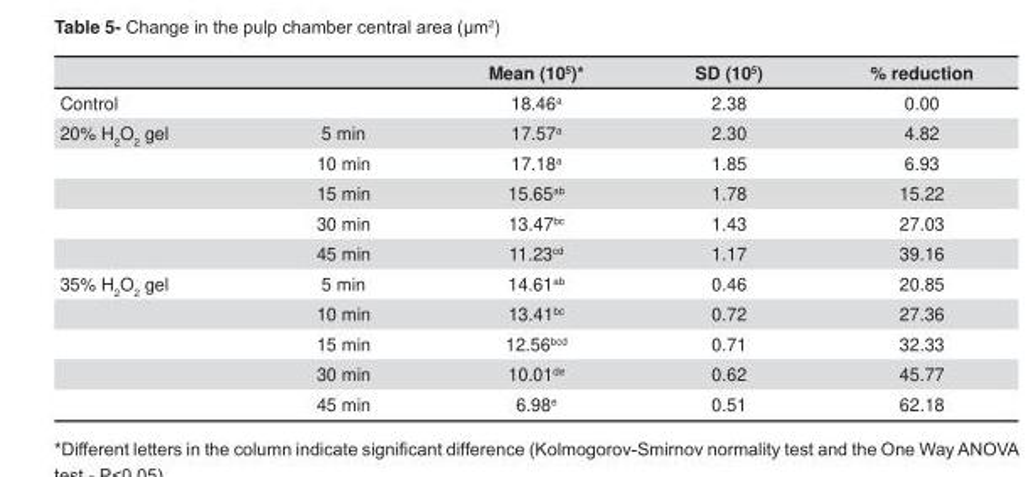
<table><thead><tr><td></td><td></td><td>Mean (105)*</td><td>SD (105)</td><td>% reduction</td></tr></thead><tbody><tr><td>Control</td><td></td><td>18.46a</td><td>2.38</td><td>0.00</td></tr><tr><td rowspan="5">20% H2O2 gel</td><td>5 min</td><td>17.57a</td><td>2.30</td><td>4.82</td></tr><tr><td>10 min</td><td>17.18a</td><td>1.85</td><td>6.93</td></tr><tr><td>15 min</td><td>15.65ab</td><td>1.78</td><td>15.22</td></tr><tr><td>30 min</td><td>13.47bc</td><td>1.43</td><td>27.03</td></tr><tr><td>45 min</td><td>11.23cd</td><td>1.17</td><td>39.16</td></tr><tr><td rowspan="5">35% H2O2 gel</td><td>5 min</td><td>14.61ab</td><td>0.46</td><td>20.85</td></tr><tr><td>10 min</td><td>13.41bc</td><td>0.72</td><td>27.36</td></tr><tr><td>15 min</td><td>12.56bcd</td><td>0.71</td><td>32.33</td></tr><tr><td>30 min</td><td>10.01de</td><td>0.62</td><td>45.77</td></tr><tr><td>45 min</td><td>6.98e</td><td>0.51</td><td>62.18</td></tr></tbody></table>